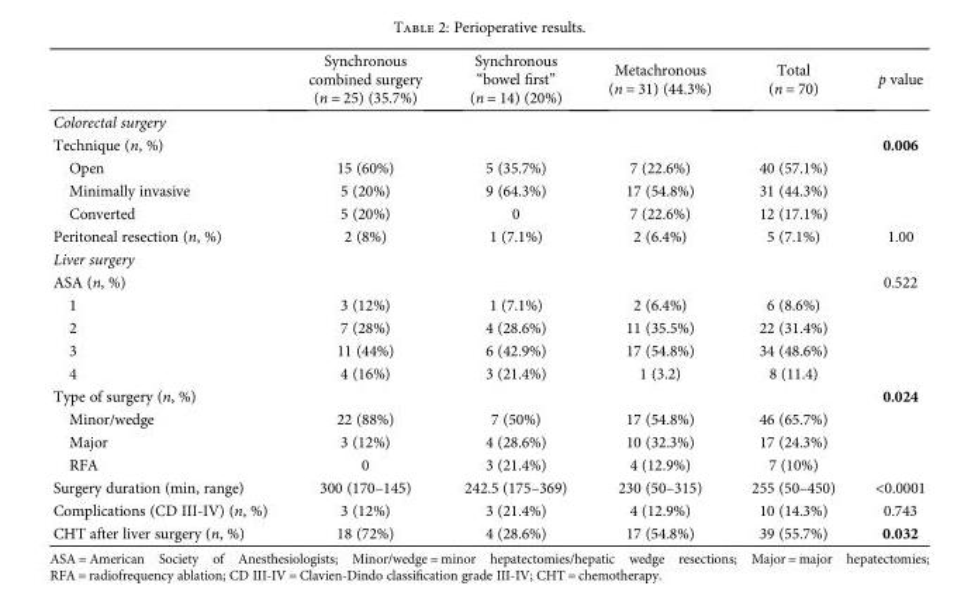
<table><thead><tr><td></td><td>Synchronous combined surgery (n = 25) (35.7%)</td><td>Synchronous “bowel first” (n = 14) (20%)</td><td>Metachronous (n = 31) (44.3%)</td><td>Total (n = 70)</td><td>p value</td></tr></thead><tbody><tr><td colspan="6">Colorectal surgery</td></tr><tr><td>Technique (n, %)</td><td></td><td></td><td></td><td></td><td>0.006</td></tr><tr><td>Open</td><td>15 (60%)</td><td>5 (35.7%)</td><td>7 (22.6%)</td><td>40 (57.1%)</td><td></td></tr><tr><td>Minimally invasive</td><td>5 (20%)</td><td>9 (64.3%)</td><td>17 (54.8%)</td><td>31 (44.3%)</td><td></td></tr><tr><td>Converted</td><td>5 (20%)</td><td>0</td><td>7 (22.6%)</td><td>12 (17.1%)</td><td></td></tr><tr><td>Peritoneal resection (n, %)</td><td>2 (8%)</td><td>1 (7.1%)</td><td>2 (6.4%)</td><td>5 (7.1%)</td><td>1.00</td></tr><tr><td colspan="6">Liver surgery</td></tr><tr><td>ASA (n, %)</td><td></td><td></td><td></td><td></td><td>0.522</td></tr><tr><td>1</td><td>3 (12%)</td><td>1 (7.1%)</td><td>2 (6.4%)</td><td>6 (8.6%)</td><td></td></tr><tr><td>2</td><td>7 (28%)</td><td>4 (28.6%)</td><td>11 (35.5%)</td><td>22 (31.4%)</td><td></td></tr><tr><td>3</td><td>11 (44%)</td><td>6 (42.9%)</td><td>17 (54.8%)</td><td>34 (48.6%)</td><td></td></tr><tr><td>4</td><td>4 (16%)</td><td>3 (21.4%)</td><td>1 (3.2)</td><td>8 (11.4)</td><td></td></tr><tr><td>Type of surgery (n, %)</td><td></td><td></td><td></td><td></td><td>0.024</td></tr><tr><td>Minor/wedge</td><td>22 (88%)</td><td>7 (50%)</td><td>17 (54.8%)</td><td>46 (65.7%)</td><td></td></tr><tr><td>Major</td><td>3 (12%)</td><td>4 (28.6%)</td><td>10 (32.3%)</td><td>17 (24.3%)</td><td></td></tr><tr><td>RFA</td><td>0</td><td>3 (21.4%)</td><td>4 (12.9%)</td><td>7 (10%)</td><td></td></tr><tr><td>Surgery duration (min, range)</td><td>300 (170–145)</td><td>242.5 (175–369)</td><td>230 (50–315)</td><td>255 (50–450)</td><td>&lt;0.0001</td></tr><tr><td>Complications (CD III-IV) (n, %)</td><td>3 (12%)</td><td>3 (21.4%)</td><td>4 (12.9%)</td><td>10 (14.3%)</td><td>0.743</td></tr><tr><td>CHT after liver surgery (n, %)</td><td>18 (72%)</td><td>4 (28.6%)</td><td>17 (54.8%)</td><td>39 (55.7%)</td><td>0.032</td></tr></tbody></table>